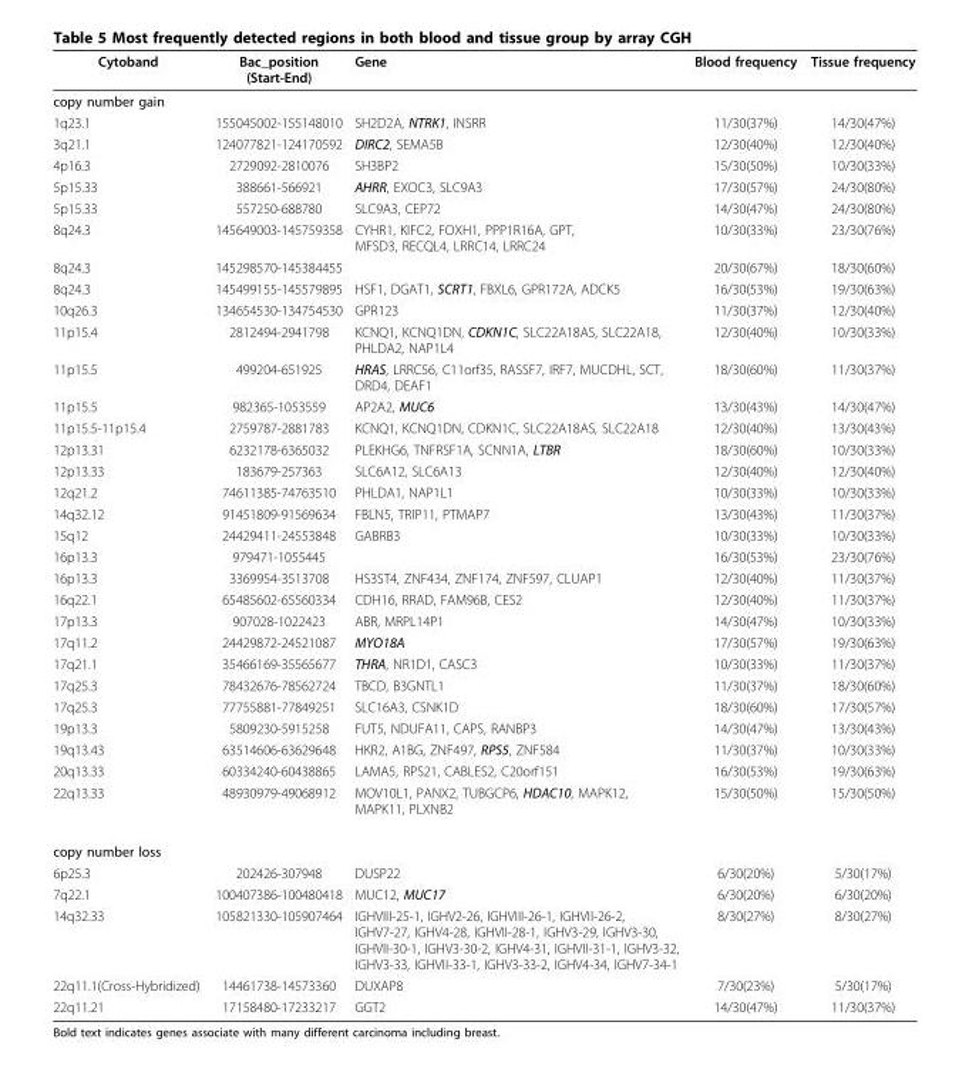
<table><thead><tr><td>Cytoband</td><td>Bac_position (Start-End)</td><td>Gene</td><td>Blood frequency</td><td>Tissue frequency</td></tr></thead><tbody><tr><td colspan="5">copy number gain</td></tr><tr><td>1q23.1</td><td>155045002-155148010</td><td>SH2D2A, NTRK1, INSRR</td><td>11/30(37%)</td><td>14/30(47%)</td></tr><tr><td>3q21.1</td><td>124077821-124170592</td><td>DIRC2, SEMA5B</td><td>12/30(40%)</td><td>12/30(40%)</td></tr><tr><td>4p16.3</td><td>2729092-2810076</td><td>SH3BP2</td><td>15/30(50%)</td><td>10/30(33%)</td></tr><tr><td>5p15.33</td><td>388661-566921</td><td>AHRR, EXOC3, SLC9A3</td><td>17/30(57%)</td><td>24/30(80%)</td></tr><tr><td>5p15.33</td><td>557250-688780</td><td>SLC9A3, CEP72</td><td>14/30(47%)</td><td>24/30(80%)</td></tr><tr><td>8q24.3</td><td>145649003-145759358</td><td>CYHR1, KIFC2, FOXH1, PPP1R16A, GPT, MFSD3, RECQL4, LRRC14, LRRC24</td><td>10/30(33%)</td><td>23/30(76%)</td></tr><tr><td>8q24.3</td><td>145298570-145384455</td><td></td><td>20/30(67%)</td><td>18/30(60%)</td></tr><tr><td>8q24.3</td><td>145499155-145579895</td><td>HSF1, DGAT1, SCRT1, FBXL6, GPR172A, ADCK5</td><td>16/30(53%)</td><td>19/30(63%)</td></tr><tr><td>10q26.3</td><td>134654530-134754530</td><td>GPR123</td><td>11/30(37%)</td><td>12/30(40%)</td></tr><tr><td>11p15.4</td><td>2812494-2941798</td><td>KCNQ1, KCNQ1DN, CDKN1C, SLC22A18AS, SLC22A18, PHLDA2, NAP1L4</td><td>12/30(40%)</td><td>10/30(33%)</td></tr><tr><td>11p15.5</td><td>499204-651925</td><td>HRAS, LRRC56, C11orf35, RASSF7, IRF7, MUCDHL, SCT, DRD4, DEAF1</td><td>18/30(60%)</td><td>11/30(37%)</td></tr><tr><td>11p15.5</td><td>982365-1053559</td><td>AP2A2, MUC6</td><td>13/30(43%)</td><td>14/30(47%)</td></tr><tr><td>11p15.5-11p15.4</td><td>2759787-2881783</td><td>KCNQ1, KCNQ1DN, CDKN1C, SLC22A18AS, SLC22A18</td><td>12/30(40%)</td><td>13/30(43%)</td></tr><tr><td>12p13.31</td><td>6232178-6365032</td><td>PLEKHG6, TNFRSF1A, SCNN1A, LTBR</td><td>18/30(60%)</td><td>10/30(33%)</td></tr><tr><td>12p13.33</td><td>183679-257363</td><td>SLC6A12, SLC6A13</td><td>12/30(40%)</td><td>12/30(40%)</td></tr><tr><td>12q21.2</td><td>74611385-74763510</td><td>PHLDA1, NAP1L1</td><td>10/30(33%)</td><td>10/30(33%)</td></tr><tr><td>14q32.12</td><td>91451809-91569634</td><td>FBLN5, TRIP11, PTMAP7</td><td>13/30(43%)</td><td>11/30(37%)</td></tr><tr><td>15q12</td><td>24429411-24553848</td><td>GABRB3</td><td>10/30(33%)</td><td>10/30(33%)</td></tr><tr><td>16p13.3</td><td>979471-1055445</td><td></td><td>16/30(53%)</td><td>23/30(76%)</td></tr><tr><td>16p13.3</td><td>3369954-3513708</td><td>HS3ST4, ZNF434, ZNF174, ZNF597, CLUAP1</td><td>12/30(40%)</td><td>11/30(37%)</td></tr><tr><td>16q22.1</td><td>65485602-65560334</td><td>CDH16, RRAD, FAM96B, CES2</td><td>12/30(40%)</td><td>11/30(37%)</td></tr><tr><td>17p13.3</td><td>907028-1022423</td><td>ABR, MRPL14P1</td><td>14/30(47%)</td><td>10/30(33%)</td></tr><tr><td>17q11.2</td><td>24429872-24521087</td><td>MYO18A</td><td>17/30(57%)</td><td>19/30(63%)</td></tr><tr><td>17q21.1</td><td>35466169-35565677</td><td>THRA, NR1D1, CASC3</td><td>10/30(33%)</td><td>11/30(37%)</td></tr><tr><td>17q25.3</td><td>78432676-78562724</td><td>TBCD, B3GNTL1</td><td>11/30(37%)</td><td>18/30(60%)</td></tr><tr><td>17q25.3</td><td>77755881-77849251</td><td>SLC16A3, CSNK1D</td><td>18/30(60%)</td><td>17/30(57%)</td></tr><tr><td>19p13.3</td><td>5809230-5915258</td><td>FUT5, NDUFA11, CAPS, RANBP3</td><td>14/30(47%)</td><td>13/30(43%)</td></tr><tr><td>19q13.43</td><td>63514606-63629648</td><td>HKR2, A1BG, ZNF497, RPS5, ZNF584</td><td>11/30(37%)</td><td>10/30(33%)</td></tr><tr><td>20q13.33</td><td>60334240-60438865</td><td>LAMA5, RPS21, CABLES2, C20orf151</td><td>16/30(53%)</td><td>19/30(63%)</td></tr><tr><td>22q13.33</td><td>48930979-49068912</td><td>MOV10L1, PANX2, TUBGCP6, HDAC10, MAPK12, MAPK11, PLXNB2</td><td>15/30(50%)</td><td>15/30(50%)</td></tr><tr><td colspan="5">copy number loss</td></tr><tr><td>6p25.3</td><td>202426-307948</td><td>DUSP22</td><td>6/30(20%)</td><td>5/30(17%)</td></tr><tr><td>7q22.1</td><td>100407386-100480418</td><td>MUC12, MUC17</td><td>6/30(20%)</td><td>6/30(20%)</td></tr><tr><td>14q32.33</td><td>105821330-105907464</td><td>IGHVIII-25-1, IGHV2-26, IGHVIII-26-1, IGHVII-26-2, IGHV7-27, IGHV4-28, IGHVII-28-1, IGHV3-29, IGHV3-30, IGHVII-30-1, IGHV3-30-2, IGHV4-31, IGHVII-31-1, IGHV3-32, IGHV3-33, IGHVII-33-1, IGHV3-33-2, IGHV4-34, IGHV7-34-1</td><td>8/30(27%)</td><td>8/30(27%)</td></tr><tr><td>22q11.1(Cross-Hybridized)</td><td>14461738-14573360</td><td>DUXAP8</td><td>7/30(23%)</td><td>5/30(17%)</td></tr><tr><td>22q11.21</td><td>17158480-17233217</td><td>GGT2</td><td>14/30(47%)</td><td>11/30(37%)</td></tr></tbody></table>